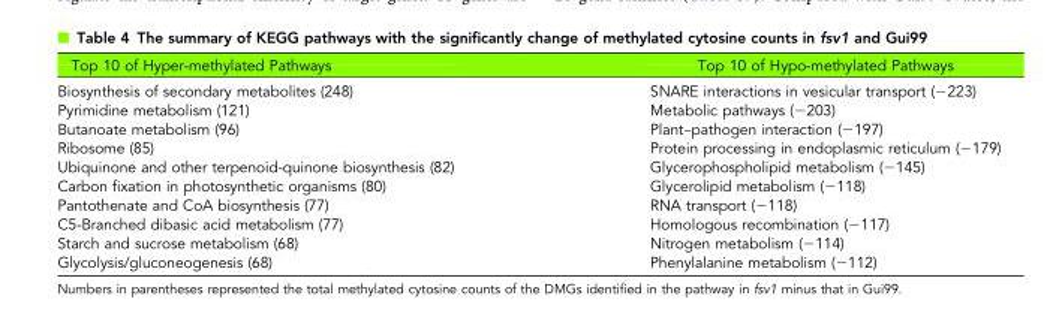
<table><thead><tr><td>Top 10 of Hyper-methylated Pathways</td><td>Top 10 of Hypo-methylated Pathways</td></tr></thead><tbody><tr><td>Biosynthesis of secondary metabolites (248)</td><td>SNARE interactions in vesicular transport (−223)</td></tr><tr><td>Pyrimidine metabolism (121)</td><td>Metabolic pathways (−203)</td></tr><tr><td>Butanoate metabolism (96)</td><td>Plant–pathogen interaction (−197)</td></tr><tr><td>Ribosome (85)</td><td>Protein processing in endoplasmic reticulum (−179)</td></tr><tr><td>Ubiquinone and other terpenoid-quinone biosynthesis (82)</td><td>Glycerophospholipid metabolism (−145)</td></tr><tr><td>Carbon fixation in photosynthetic organisms (80)</td><td>Glycerolipid metabolism (−118)</td></tr><tr><td>Pantothenate and CoA biosynthesis (77)</td><td>RNA transport (−118)</td></tr><tr><td>C5-Branched dibasic acid metabolism (77)</td><td>Homologous recombination (−117)</td></tr><tr><td>Starch and sucrose metabolism (68)</td><td>Nitrogen metabolism (−114)</td></tr><tr><td>Glycolysis/gluconeogenesis (68)</td><td>Phenylalanine metabolism (−112)</td></tr></tbody></table>